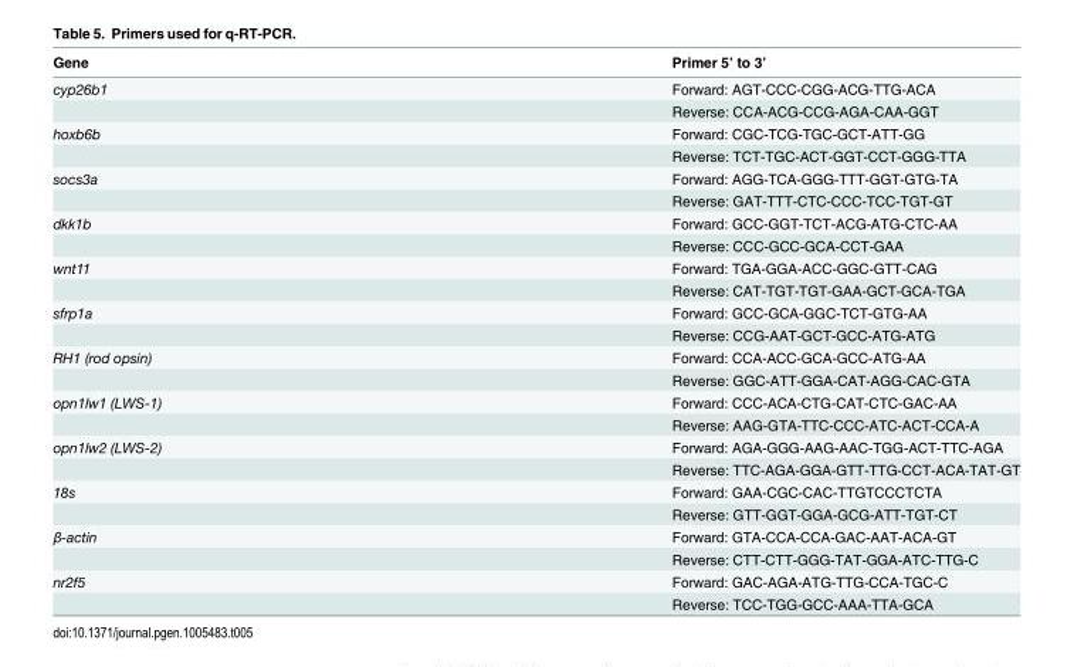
<table><thead><tr><td>Gene</td><td>Primer 5’ to 3’</td></tr></thead><tbody><tr><td rowspan="2">cyp26b1</td><td>Forward: AGT-CCC-CGG-ACG-TTG-ACA</td></tr><tr><td>Reverse: CCA-ACG-CCG-AGA-CAA-GGT</td></tr><tr><td rowspan="2">hoxb6b</td><td>Forward: CGC-TCG-TGC-GCT-ATT-GG</td></tr><tr><td>Reverse: TCT-TGC-ACT-GGT-CCT-GGG-TTA</td></tr><tr><td rowspan="2">socs3a</td><td>Forward: AGG-TCA-GGG-TTT-GGT-GTG-TA</td></tr><tr><td>Reverse: GAT-TTT-CTC-CCC-TCC-TGT-GT</td></tr><tr><td rowspan="2">dkk1b</td><td>Forward: GCC-GGT-TCT-ACG-ATG-CTC-AA</td></tr><tr><td>Reverse: CCC-GCC-GCA-CCT-GAA</td></tr><tr><td rowspan="2">wnt11</td><td>Forward: TGA-GGA-ACC-GGC-GTT-CAG</td></tr><tr><td>Reverse: CAT-TGT-TGT-GAA-GCT-GCA-TGA</td></tr><tr><td rowspan="2">sfrp1a</td><td>Forward: GCC-GCA-GGC-TCT-GTG-AA</td></tr><tr><td>Reverse: CCG-AAT-GCT-GCC-ATG-ATG</td></tr><tr><td rowspan="2">RH1 (rod opsin)</td><td>Forward: CCA-ACC-GCA-GCC-ATG-AA</td></tr><tr><td>Reverse: GGC-ATT-GGA-CAT-AGG-CAC-GTA</td></tr><tr><td rowspan="2">opn1lw1 (LWS-1)</td><td>Forward: CCC-ACA-CTG-CAT-CTC-GAC-AA</td></tr><tr><td>Reverse: AAG-GTA-TTC-CCC-ATC-ACT-CCA-A</td></tr><tr><td rowspan="2">opn1lw2 (LWS-2)</td><td>Forward: AGA-GGG-AAG-AAC-TGG-ACT-TTC-AGA</td></tr><tr><td>Reverse: TTC-AGA-GGA-GTT-TTG-CCT-ACA-TAT-GT</td></tr><tr><td rowspan="2">18s</td><td>Forward: GAA-CGC-CAC-TTGTCCCTCTA</td></tr><tr><td>Reverse: GTT-GGT-GGA-GCG-ATT-TGT-CT</td></tr><tr><td rowspan="2">β-actin</td><td>Forward: GTA-CCA-CCA-GAC-AAT-ACA-GT</td></tr><tr><td>Reverse: CTT-CTT-GGG-TAT-GGA-ATC-TTG-C</td></tr><tr><td rowspan="2">nr2f5</td><td>Forward: GAC-AGA-ATG-TTG-CCA-TGC-C</td></tr><tr><td>Reverse: TCC-TGG-GCC-AAA-TTA-GCA</td></tr></tbody></table>